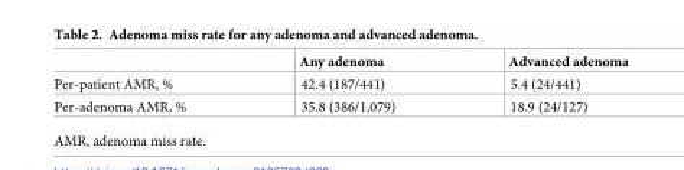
<table><thead><tr><td></td><td>Any adenoma</td><td>Advanced adenoma</td></tr></thead><tbody><tr><td>Per-patient AMR, %</td><td>42.4 (187/441)</td><td>5.4 (24/441)</td></tr><tr><td>Per-adenoma AMR, %</td><td>35.8 (386/1,079)</td><td>18.9 (24/127)</td></tr></tbody></table>